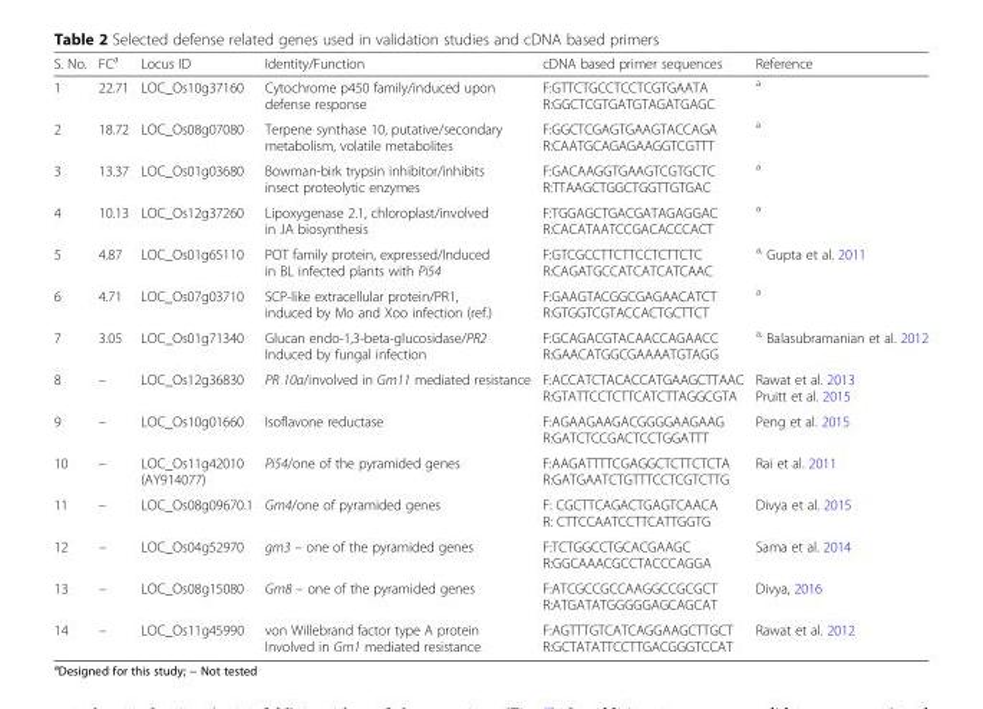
<table><thead><tr><td>S. No.</td><td>FC<sup>a</sup></td><td>Locus ID</td><td>Identity/Function</td><td>cDNA based primer sequences</td><td>Reference</td></tr></thead><tbody><tr><td>1</td><td>22.71</td><td>LOC_Os10g37160</td><td>Cytochrome p450 family/induced upon defense response</td><td>F:GTTCTGCCTCCTCGTGAATA R:GGCTCGTGATGTAGATGAGC</td><td><sup>a</sup></td></tr><tr><td>2</td><td>18.72</td><td>LOC_Os08g07080</td><td>Terpene synthase 10, putative/secondary metabolism, volatile metabolites</td><td>F:GGCTCGAGTGAAGTACCAGA R:CAATGCAGAGAAGGTCGTTT</td><td><sup>a</sup></td></tr><tr><td>3</td><td>13.37</td><td>LOC_Os01g03680</td><td>Bowman-birk trypsin inhibitor/inhibits insect proteolytic enzymes</td><td>F:GACAAGGTGAAGTCGTGCTC R:TTAAGCTGGCTGGTTGTGAC</td><td><sup>a</sup></td></tr><tr><td>4</td><td>10.13</td><td>LOC_Os12g37260</td><td>Lipoxygenase 2.1, chloroplast/involved in JA biosynthesis</td><td>F:TGGAGCTGACGATAGAGGAC R:CACATAATCCGACACCCACT</td><td><sup>a</sup></td></tr><tr><td>5</td><td>4.87</td><td>LOC_Os01g65110</td><td>POT family protein, expressed/Induced in BL infected plants with Pi54</td><td>F:GTCGCCTTCTTCCTCTTCTC R:CAGATGCCATCATCATCAAC</td><td><sup>a,</sup> Gupta et al. 2011</td></tr><tr><td>6</td><td>4.71</td><td>LOC_Os07g03710</td><td>SCP-like extracellular protein/PR1, induced by Mo and Xoo infection (ref.)</td><td>F:GAAGTACGGCGAGAACATCT R:GTGGTCGTACCACTGCTTCT</td><td><sup>a</sup></td></tr><tr><td>7</td><td>3.05</td><td>LOC_Os01g71340</td><td>Glucan endo-1,3-beta-glucosidase/PR2 Induced by fungal infection</td><td>F:GCAGACGTACAACCAGAACC R:GAACATGGCGAAAATGTAGG</td><td><sup>a,</sup> Balasubramanian et al. 2012</td></tr><tr><td>8</td><td>–</td><td>LOC_Os12g36830</td><td>PR 10a/involved in Gm11 mediated resistance</td><td>F:ACCATCTACACCATGAAGCTTAAC R:GTATTCCTCTTCATCTTAGGCGTA</td><td>Rawat et al. 2013 Pruitt et al. 2015</td></tr><tr><td>9</td><td>–</td><td>LOC_Os10g01660</td><td>Isoflavone reductase</td><td>F:AGAAGAAGACGGGGAAGAAG R:GATCTCCGACTCCTGGATTT</td><td>Peng et al. 2015</td></tr><tr><td>10</td><td>–</td><td>LOC_Os11g42010 (AY914077)</td><td>Pi54/one of the pyramided genes</td><td>F:AAGATTTTCGAGGCTCTTCTCTA R:GATGAATCTGTTTCCTCGTCTTG</td><td>Rai et al. 2011</td></tr><tr><td>11</td><td>–</td><td>LOC_Os08g09670.1</td><td>Gm4/one of pyramided genes</td><td>F: CGCTTCAGACTGAGTCAACA R: CTTCCAATCCTTCATTGGTG</td><td>Divya et al. 2015</td></tr><tr><td>12</td><td>–</td><td>LOC_Os04g52970</td><td>gm3 – one of the pyramided genes</td><td>F:TCTGGCCTGCACGAAGC R:GGCAAACGCCTACCCAGGA</td><td>Sama et al. 2014</td></tr><tr><td>13</td><td>–</td><td>LOC_Os08g15080</td><td>Gm8 – one of the pyramided genes</td><td>F:ATCGCCGCCAAGGCCGCGCT R:ATGATATGGGGGAGCAGCAT</td><td>Divya, 2016</td></tr><tr><td>14</td><td>–</td><td>LOC_Os11g45990</td><td>von Willebrand factor type A protein Involved in Gm1 mediated resistance</td><td>F:AGTTTGTCATCAGGAAGCTTGCT R:GCTATATTCCTTGACGGGTCCAT</td><td>Rawat et al. 2012</td></tr></tbody></table>